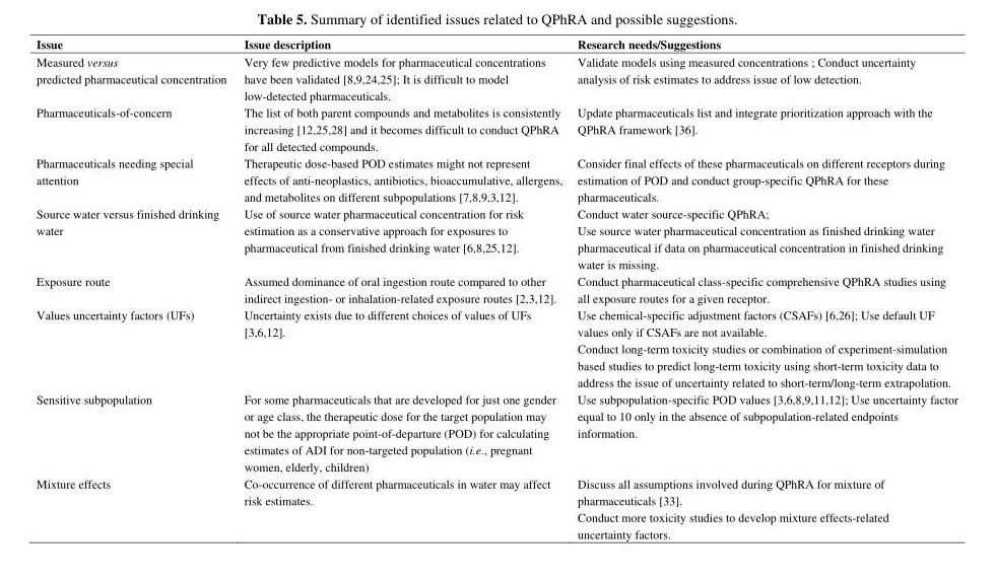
<table><thead><tr><td>Issue</td><td>Issue description</td><td>Research needs/Suggestions</td></tr></thead><tbody><tr><td>Measured versus predicted pharmaceutical concentration</td><td>Very few predictive models for pharmaceutical concentrations have been validated [8,9,24,25]; It is difficult to model low-detected pharmaceuticals.</td><td>Validate models using measured concentrations ; Conduct uncertainty analysis of risk estimates to address issue of low detection.</td></tr><tr><td>Pharmaceuticals-of-concern</td><td>The list of both parent compounds and metabolites is consistently increasing [12,25,28] and it becomes difficult to conduct QPhRA for all detected compounds.</td><td>Update pharmaceuticals list and integrate prioritization approach with the QPhRA framework [36].</td></tr><tr><td>Pharmaceuticals needing special attention</td><td>Therapeutic dose-based POD estimates might not represent effects of anti-neoplastics, antibiotics, bioaccumulative, allergens, and metabolites on different subpopulations [7,8,9,3,12].</td><td>Consider final effects of these pharmaceuticals on different receptors during estimation of POD and conduct group-specific QPhRA for these pharmaceuticals.</td></tr><tr><td>Source water versus finished drinking water</td><td>Use of source water pharmaceutical concentration for risk estimation as a conservative approach for exposures to pharmaceutical from finished drinking water [6,8,25,12].</td><td>Conduct water source-specific QPhRA; Use source water pharmaceutical concentration as finished drinking water pharmaceutical if data on pharmaceutical concentration in finished drinking water is missing.</td></tr><tr><td>Exposure route</td><td>Assumed dominance of oral ingestion route compared to other indirect ingestion- or inhalation-related exposure routes [2,3,12].</td><td>Conduct pharmaceutical class-specific comprehensive QPhRA studies using all exposure routes for a given receptor.</td></tr><tr><td>Values uncertainty factors (UFs)</td><td>Uncertainty exists due to different choices of values of UFs [3,6,12].</td><td>Use chemical-specific adjustment factors (CSAFs) [6,26]; Use default UF values only if CSAFs are not available. Conduct long-term toxicity studies or combination of experiment-simulation based studies to predict long-term toxicity using short-term toxicity data to address the issue of uncertainty related to short-term/long-term extrapolation.</td></tr><tr><td>Sensitive subpopulation</td><td>For some pharmaceuticals that are developed for just one gender or age class, the therapeutic dose for the target population may not be the appropriate point-of-departure (POD) for calculating estimates of ADI for non-targeted population (i.e., pregnant women, elderly, children)</td><td>Use subpopulation-specific POD values [3,6,8,9,11,12]; Use uncertainty factor equal to 10 only in the absence of subpopulation-related endpoints information.</td></tr><tr><td>Mixture effects</td><td>Co-occurrence of different pharmaceuticals in water may affect risk estimates.</td><td>Discuss all assumptions involved during QPhRA for mixture of pharmaceuticals [33]. Conduct more toxicity studies to develop mixture effects-related uncertainty factors.</td></tr></tbody></table>